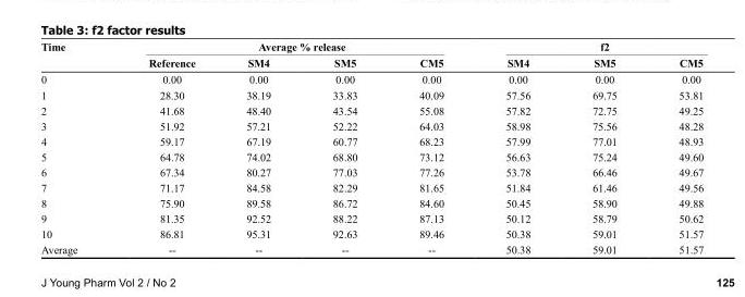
<table><thead><tr><td rowspan="2">Time</td><td colspan="4">Average % release</td><td colspan="3">f2</td></tr><tr><td>Reference</td><td>SM4</td><td>SM5</td><td>CM5</td><td>SM4</td><td>SM5</td><td>CM5</td></tr></thead><tbody><tr><td>0</td><td>0.00</td><td>0.00</td><td>0.00</td><td>0.00</td><td>0.00</td><td>0.00</td><td>0.00</td></tr><tr><td>1</td><td>28.30</td><td>38.19</td><td>33.83</td><td>40.09</td><td>57.56</td><td>69.75</td><td>53.81</td></tr><tr><td>2</td><td>41.68</td><td>48.40</td><td>43.54</td><td>55.08</td><td>57.82</td><td>72.75</td><td>49.25</td></tr><tr><td>3</td><td>51.92</td><td>57.21</td><td>52.22</td><td>64.03</td><td>58.98</td><td>75.56</td><td>48.28</td></tr><tr><td>4</td><td>59.17</td><td>67.19</td><td>60.77</td><td>68.23</td><td>57.99</td><td>77.01</td><td>48.93</td></tr><tr><td>5</td><td>64.78</td><td>74.02</td><td>68.80</td><td>73.12</td><td>56.63</td><td>75.24</td><td>49.60</td></tr><tr><td>6</td><td>67.34</td><td>80.27</td><td>77.03</td><td>77.26</td><td>53.78</td><td>66.46</td><td>49.67</td></tr><tr><td>7</td><td>71.17</td><td>84.58</td><td>82.29</td><td>81.65</td><td>51.84</td><td>61.46</td><td>49.56</td></tr><tr><td>8</td><td>75.90</td><td>89.58</td><td>86.72</td><td>84.60</td><td>50.45</td><td>58.90</td><td>49.88</td></tr><tr><td>9</td><td>81.35</td><td>92.52</td><td>88.22</td><td>87.13</td><td>50.12</td><td>58.79</td><td>50.62</td></tr><tr><td>10</td><td>86.81</td><td>95.31</td><td>92.63</td><td>89.46</td><td>50.38</td><td>59.01</td><td>51.57</td></tr><tr><td>Average</td><td>--</td><td>--</td><td>--</td><td>--</td><td>50.38</td><td>59.01</td><td>51.57</td></tr></tbody></table>